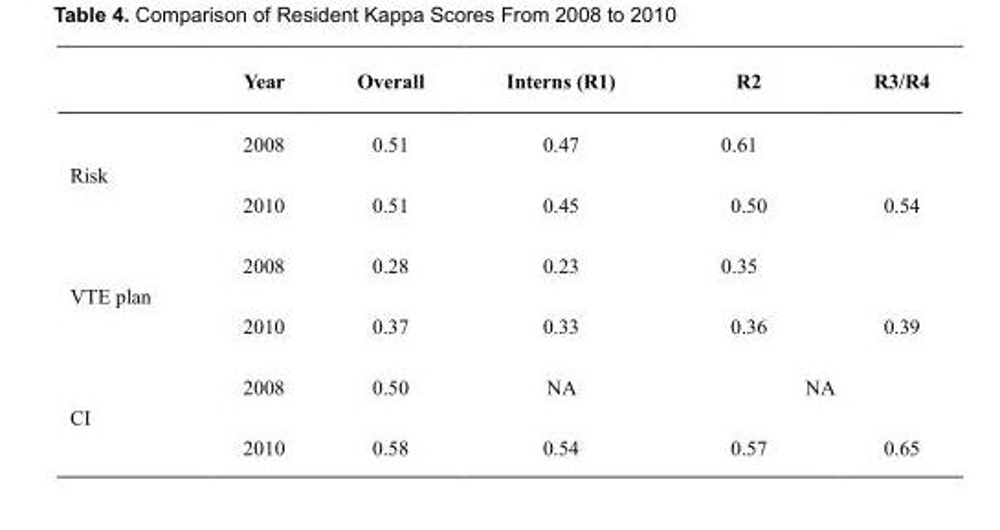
<table><thead><tr><td></td><td>Year</td><td>Overall</td><td>Interns (R1)</td><td>R2</td><td>R3/R4</td></tr></thead><tbody><tr><td rowspan="2">Risk</td><td>2008</td><td>0.51</td><td>0.47</td><td>0.61</td><td></td></tr><tr><td>2010</td><td>0.51</td><td>0.45</td><td>0.50</td><td>0.54</td></tr><tr><td rowspan="2">VTE plan</td><td>2008</td><td>0.28</td><td>0.23</td><td>0.35</td><td></td></tr><tr><td>2010</td><td>0.37</td><td>0.33</td><td>0.36</td><td>0.39</td></tr><tr><td rowspan="2">CI</td><td>2008</td><td>0.50</td><td>NA</td><td colspan="2">NA</td></tr><tr><td>2010</td><td>0.58</td><td>0.54</td><td>0.57</td><td>0.65</td></tr></tbody></table>